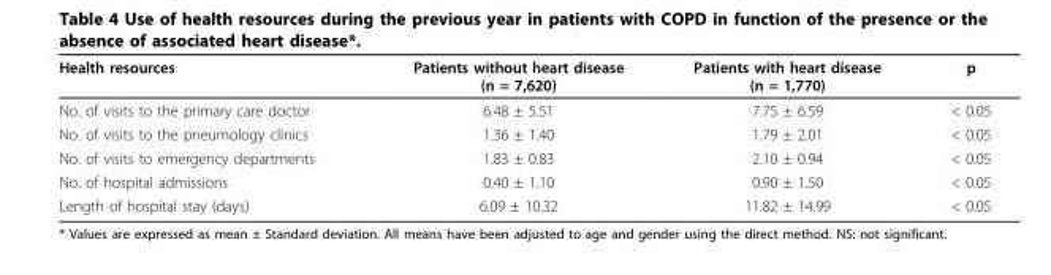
<table><thead><tr><td>Health resources</td><td>Patients without heart disease (n = 7,620)</td><td>Patients with heart disease (n = 1,770)</td><td>p</td></tr></thead><tbody><tr><td>No. of visits to the primary care doctor</td><td>6.48 ± 5.51</td><td>7.75 ± 6.59</td><td>&lt; 0.05</td></tr><tr><td>No. of visits to the pneumology clinics</td><td>1.36 ± 1.40</td><td>1.79 ± 2.01</td><td>&lt; 0.05</td></tr><tr><td>No. of visits to emergency departments</td><td>1.83 ± 0.83</td><td>2.10 ± 0.94</td><td>&lt; 0.05</td></tr><tr><td>No. of hospital admissions</td><td>0.40 ± 1.10</td><td>0.90 ± 1.50</td><td>&lt; 0.05</td></tr><tr><td>Length of hospital stay (days)</td><td>6.09 ± 10.32</td><td>11.82 ± 14.99</td><td>&lt; 0.05</td></tr></tbody></table>